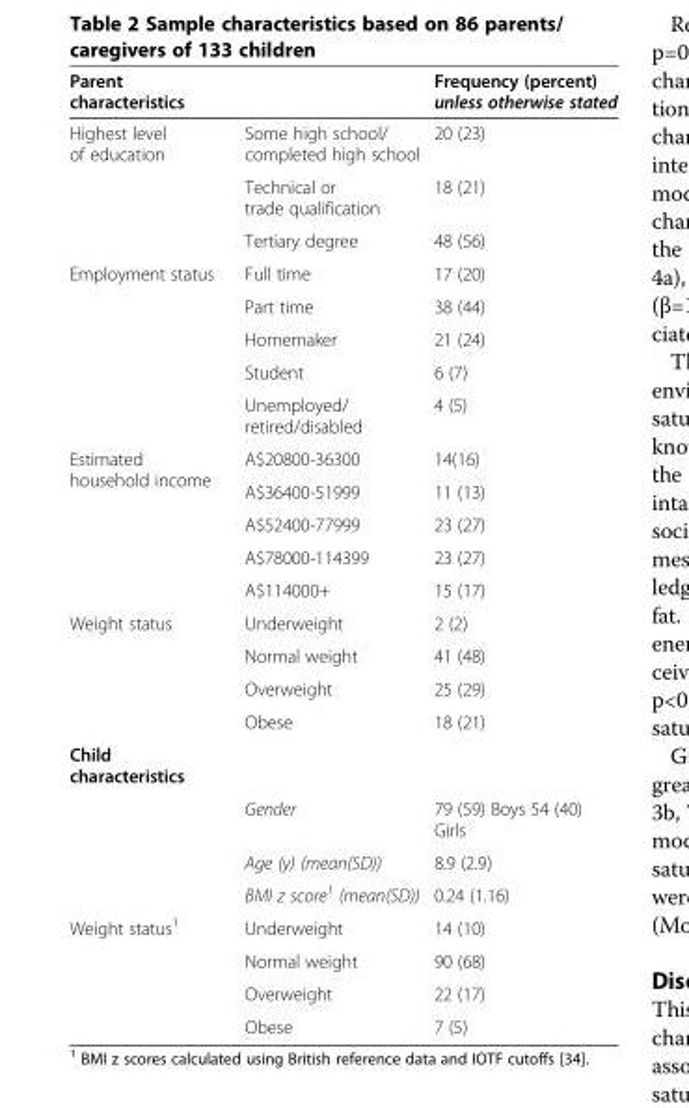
<table><thead><tr><td>Parent characteristics</td><td></td><td>Frequency (percent) unless otherwise stated</td></tr></thead><tbody><tr><td rowspan="3">Highest level of education</td><td>Some high school/ completed high school</td><td>20 (23)</td></tr><tr><td>Technical or trade qualification</td><td>18 (21)</td></tr><tr><td>Tertiary degree</td><td>48 (56)</td></tr><tr><td rowspan="5">Employment status</td><td>Full time</td><td>17 (20)</td></tr><tr><td>Part time</td><td>38 (44)</td></tr><tr><td>Homemaker</td><td>21 (24)</td></tr><tr><td>Student</td><td>6 (7)</td></tr><tr><td>Unemployed/ retired/disabled</td><td>4 (5)</td></tr><tr><td rowspan="5">Estimated household income</td><td>A$20800-36300</td><td>14(16)</td></tr><tr><td>A$36400-51999</td><td>11 (13)</td></tr><tr><td>A$52400-77999</td><td>23 (27)</td></tr><tr><td>A$78000-114399</td><td>23 (27)</td></tr><tr><td>A$114000+</td><td>15 (17)</td></tr><tr><td rowspan="4">Weight status</td><td>Underweight</td><td>2 (2)</td></tr><tr><td>Normal weight</td><td>41 (48)</td></tr><tr><td>Overweight</td><td>25 (29)</td></tr><tr><td>Obese</td><td>18 (21)</td></tr><tr><td colspan="3">Child characteristics</td></tr><tr><td></td><td>Gender</td><td>79 (59) Boys 54 (40) Girls</td></tr><tr><td></td><td>Age (y) (mean(SD))</td><td>8.9 (2.9)</td></tr><tr><td></td><td>BMI z score<sup>1</sup> (mean(SD))</td><td>0.24 (1.16)</td></tr><tr><td rowspan="4">Weight status<sup>1</sup></td><td>Underweight</td><td>14 (10)</td></tr><tr><td>Normal weight</td><td>90 (68)</td></tr><tr><td>Overweight</td><td>22 (17)</td></tr><tr><td>Obese</td><td>7 (5)</td></tr></tbody></table>